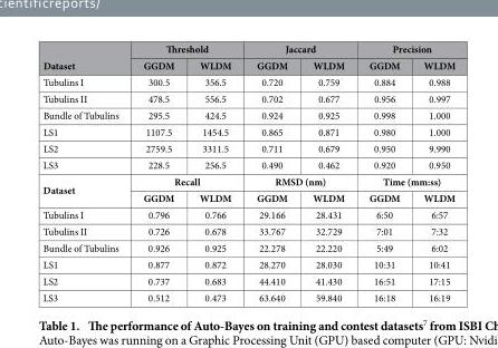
<table><thead><tr><td rowspan="2">Dataset</td><td colspan="2">Threshold</td><td colspan="2">Jaccard</td><td colspan="2">Precision</td></tr><tr><td>GGDM</td><td>WLDM</td><td>GGDM</td><td>WLDM</td><td>GGDM</td><td>WLDM</td></tr></thead><tbody><tr><td>Tubulins I</td><td>300.5</td><td>356.5</td><td>0.720</td><td>0.759</td><td>0.884</td><td>0.988</td></tr><tr><td>Tubulins II</td><td>478.5</td><td>556.5</td><td>0.702</td><td>0.677</td><td>0.956</td><td>0.997</td></tr><tr><td>Bundle of Tubulins</td><td>295.5</td><td>424.5</td><td>0.924</td><td>0.925</td><td>0.998</td><td>1.000</td></tr><tr><td>LS1</td><td>1107.5</td><td>1454.5</td><td>0.865</td><td>0.871</td><td>0.980</td><td>1.000</td></tr><tr><td>LS2</td><td>2759.5</td><td>3311.5</td><td>0.711</td><td>0.679</td><td>0.950</td><td>9.990</td></tr><tr><td>LS3</td><td>228.5</td><td>256.5</td><td>0.490</td><td>0.462</td><td>0.920</td><td>0.950</td></tr><tr><td rowspan="2">Dataset</td><td colspan="2">Recall</td><td colspan="2">RMSD (nm)</td><td colspan="2">Time (mm:ss)</td></tr><tr><td>GGDM</td><td>WLDM</td><td>GGDM</td><td>WLDM</td><td>GGDM</td><td>WLDM</td></tr><tr><td>Tubulins I</td><td>0.796</td><td>0.766</td><td>29.166</td><td>28.431</td><td>6:50</td><td>6:57</td></tr><tr><td>Tubulins II</td><td>0.726</td><td>0.678</td><td>33.767</td><td>32.729</td><td>7:01</td><td>7:32</td></tr><tr><td>Bundle of Tubulins</td><td>0.926</td><td>0.925</td><td>22.278</td><td>22.220</td><td>5:49</td><td>6:02</td></tr><tr><td>LS1</td><td>0.877</td><td>0.872</td><td>28.270</td><td>28.030</td><td>10:31</td><td>10:41</td></tr><tr><td>LS2</td><td>0.737</td><td>0.683</td><td>44.410</td><td>41.430</td><td>16:51</td><td>17:15</td></tr><tr><td>LS3</td><td>0.512</td><td>0.473</td><td>63.640</td><td>59.840</td><td>16:18</td><td>16:19</td></tr></tbody></table>